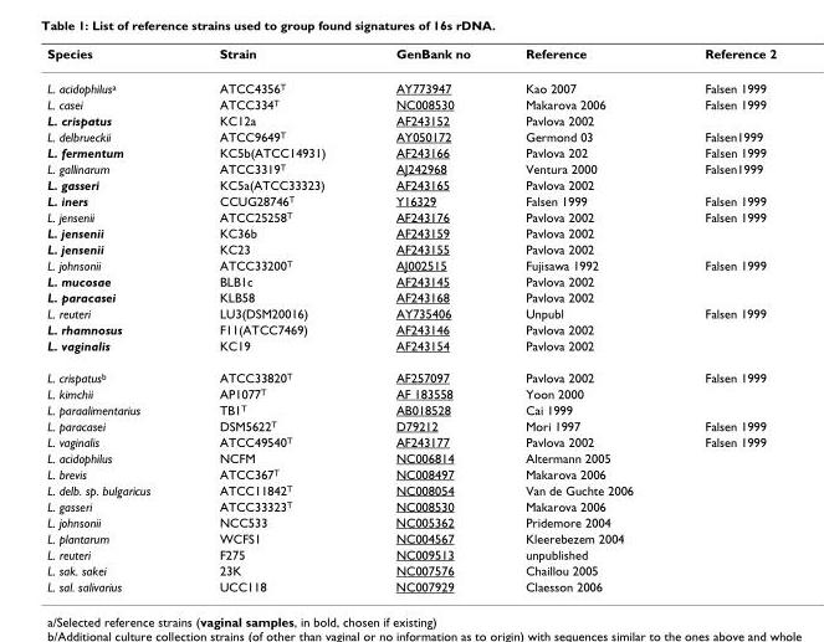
<table><thead><tr><td>Species</td><td>Strain</td><td>GenBank no</td><td>Reference</td><td>Reference 2</td></tr></thead><tbody><tr><td>L. acidophilus<sup>a</sup></td><td>ATCC4356<sup>T</sup></td><td>AY773947</td><td>Kao 2007</td><td>Falsen 1999</td></tr><tr><td>L. casei</td><td>ATCC334<sup>T</sup></td><td>NC008530</td><td>Makarova 2006</td><td>Falsen 1999</td></tr><tr><td>L. crispatus</td><td>KC12a</td><td>AF243152</td><td>Pavlova 2002</td><td></td></tr><tr><td>L. delbrueckii</td><td>ATCC9649<sup>T</sup></td><td>AY050172</td><td>Germond 03</td><td>Falsen1999</td></tr><tr><td>L. fermentum</td><td>KC5b(ATCC14931)</td><td>AF243166</td><td>Pavlova 202</td><td>Falsen 1999</td></tr><tr><td>L. gallinarum</td><td>ATCC3319<sup>T</sup></td><td>AJ242968</td><td>Ventura 2000</td><td>Falsen1999</td></tr><tr><td>L. gasseri</td><td>KC5a(ATCC33323)</td><td>AF243165</td><td>Pavlova 2002</td><td></td></tr><tr><td>L. iners</td><td>CCUG28746<sup>T</sup></td><td>Y16329</td><td>Falsen 1999</td><td>Falsen 1999</td></tr><tr><td>L. jensenii</td><td>ATCC25258<sup>T</sup></td><td>AF243176</td><td>Pavlova 2002</td><td>Falsen 1999</td></tr><tr><td>L. jensenii</td><td>KC36b</td><td>AF243159</td><td>Pavlova 2002</td><td></td></tr><tr><td>L. jensenii</td><td>KC23</td><td>AF243155</td><td>Pavlova 2002</td><td></td></tr><tr><td>L. johnsonii</td><td>ATCC33200<sup>T</sup></td><td>AJ002515</td><td>Fujisawa 1992</td><td>Falsen 1999</td></tr><tr><td>L. mucosae</td><td>BLB1c</td><td>AF243145</td><td>Pavlova 2002</td><td></td></tr><tr><td>L. paracasei</td><td>KLB58</td><td>AF243168</td><td>Pavlova 2002</td><td></td></tr><tr><td>L. reuteri</td><td>LU3(DSM20016)</td><td>AY735406</td><td>Unpubl</td><td>Falsen 1999</td></tr><tr><td>L. rhamnosus</td><td>F11(ATCC7469)</td><td>AF243146</td><td>Pavlova 2002</td><td></td></tr><tr><td>L. vaginalis</td><td>KC19</td><td>AF243154</td><td>Pavlova 2002</td><td></td></tr><tr><td>L. crispatus<sup>b</sup></td><td>ATCC33820<sup>T</sup></td><td>AF257097</td><td>Pavlova 2002</td><td>Falsen 1999</td></tr><tr><td>L. kimchii</td><td>AP1077<sup>T</sup></td><td>AF 183558</td><td>Yoon 2000</td><td></td></tr><tr><td>L. paraalimentarius</td><td>TB1<sup>T</sup></td><td>AB018528</td><td>Cai 1999</td><td></td></tr><tr><td>L. paracasei</td><td>DSM5622<sup>T</sup></td><td>D79212</td><td>Mori 1997</td><td>Falsen 1999</td></tr><tr><td>L. vaginalis</td><td>ATCC49540<sup>T</sup></td><td>AF243177</td><td>Pavlova 2002</td><td>Falsen 1999</td></tr><tr><td>L. acidophilus</td><td>NCFM</td><td>NC006814</td><td>Altermann 2005</td><td></td></tr><tr><td>L. brevis</td><td>ATCC367<sup>T</sup></td><td>NC008497</td><td>Makarova 2006</td><td></td></tr><tr><td>L. delb. sp. bulgaricus</td><td>ATCC11842<sup>T</sup></td><td>NC008054</td><td>Van de Guchte 2006</td><td></td></tr><tr><td>L. gasseri</td><td>ATCC33323<sup>T</sup></td><td>NC008530</td><td>Makarova 2006</td><td></td></tr><tr><td>L. johnsonii</td><td>NCC533</td><td>NC005362</td><td>Pridemore 2004</td><td></td></tr><tr><td>L. plantarum</td><td>WCFS1</td><td>NC004567</td><td>Kleerebezem 2004</td><td></td></tr><tr><td>L. reuteri</td><td>F275</td><td>NC009513</td><td>unpublished</td><td></td></tr><tr><td>L. sak. sakei</td><td>23K</td><td>NC007576</td><td>Chaillou 2005</td><td></td></tr><tr><td>L. sal. salivarius</td><td>UCC118</td><td>NC007929</td><td>Claesson 2006</td><td></td></tr></tbody></table>